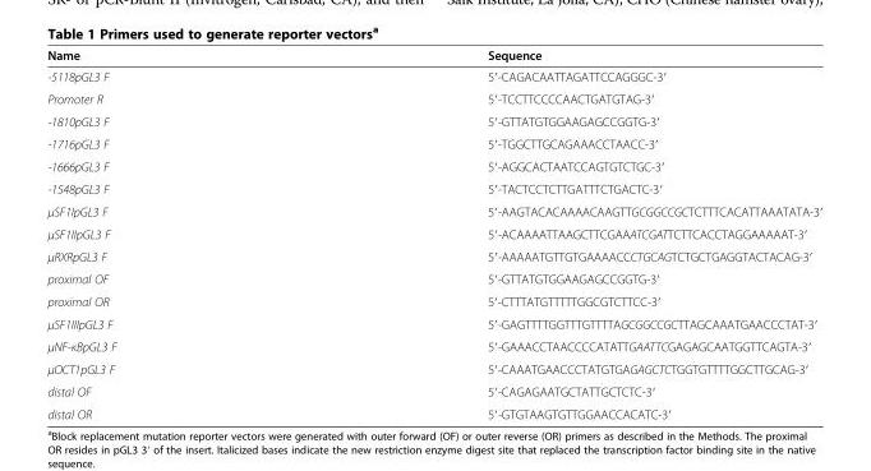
<table><thead><tr><td>Name</td><td>Sequence</td></tr></thead><tbody><tr><td>-5118pGL3 F</td><td>5′-CAGACAATTAGATTCCAGGGC-3′</td></tr><tr><td>Promoter R</td><td>5′-TCCTTCCCCAACTGATGTAG-3′</td></tr><tr><td>-1810pGL3 F</td><td>5′-GTTATGTGGAAGAGCCGGTG-3′</td></tr><tr><td>-1716pGL3 F</td><td>5′-TGGCTTGCAGAAACCTAACC-3′</td></tr><tr><td>-1666pGL3 F</td><td>5′-AGGCACTAATCCAGTGTCTGC-3′</td></tr><tr><td>-1548pGL3 F</td><td>5′-TACTCCTCTTGATTTCTGACTC-3′</td></tr><tr><td>μSF1IpGL3 F</td><td>5′-AAGTACACAAAACAAGTTGCGGCCGCTCTTTCACATTAAATATA-3′</td></tr><tr><td>μSF1IIpGL3 F</td><td>5′-ACAAAATTAAGCTTCGAAATCGATTCTTCACCTAGGAAAAAT-3′</td></tr><tr><td>μRXRpGL3 F</td><td>5′-AAAAATGTTGTGAAAACCCTGCAGTCTGCTGAGGTACTACAG-3′</td></tr><tr><td>proximal OF</td><td>5′-GTTATGTGGAAGAGCCGGTG-3′</td></tr><tr><td>proximal OR</td><td>5′-CTTTATGTTTTTGGCGTCTTCC-3′</td></tr><tr><td>μSF1IIIpGL3 F</td><td>5′-GAGTTTTGGTTTGTTTTAGCGGCCGCTTAGCAAATGAACCCTAT-3′</td></tr><tr><td>μNF-κBpGL3 F</td><td>5′-GAAACCTAACCCCATATTGAATTCGAGAGCAATGGTTCAGTA-3′</td></tr><tr><td>μOCT1pGL3 F</td><td>5′-CAAATGAACCCTATGTGAGAGCTCTGGTGTTTTGGCTTGCAG-3′</td></tr><tr><td>distal OF</td><td>5′-CAGAGAATGCTATTGCTCTC-3′</td></tr><tr><td>distal OR</td><td>5′-GTGTAAGTGTTGGAACCACATC-3′</td></tr></tbody></table>